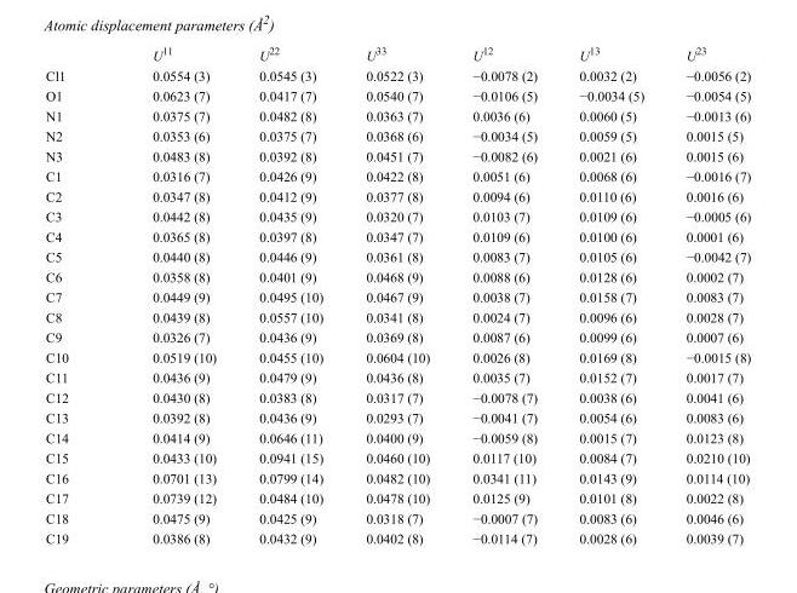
<table><thead><tr><td></td><td>U<sup>11</sup></td><td>U<sup>22</sup></td><td>U<sup>33</sup></td><td>U<sup>12</sup></td><td>U<sup>13</sup></td><td>U<sup>23</sup></td></tr></thead><tbody><tr><td>Cl1</td><td>0.0554 (3)</td><td>0.0545 (3)</td><td>0.0522 (3)</td><td>−0.0078 (2)</td><td>0.0032 (2)</td><td>−0.0056 (2)</td></tr><tr><td>O1</td><td>0.0623 (7)</td><td>0.0417 (7)</td><td>0.0540 (7)</td><td>−0.0106 (5)</td><td>−0.0034 (5)</td><td>−0.0054 (5)</td></tr><tr><td>N1</td><td>0.0375 (7)</td><td>0.0482 (8)</td><td>0.0363 (7)</td><td>0.0036 (6)</td><td>0.0060 (5)</td><td>−0.0013 (6)</td></tr><tr><td>N2</td><td>0.0353 (6)</td><td>0.0375 (7)</td><td>0.0368 (6)</td><td>−0.0034 (5)</td><td>0.0059 (5)</td><td>0.0015 (5)</td></tr><tr><td>N3</td><td>0.0483 (8)</td><td>0.0392 (8)</td><td>0.0451 (7)</td><td>−0.0082 (6)</td><td>0.0021 (6)</td><td>0.0015 (6)</td></tr><tr><td>C1</td><td>0.0316 (7)</td><td>0.0426 (9)</td><td>0.0422 (8)</td><td>0.0051 (6)</td><td>0.0068 (6)</td><td>−0.0016 (7)</td></tr><tr><td>C2</td><td>0.0347 (8)</td><td>0.0412 (9)</td><td>0.0377 (8)</td><td>0.0094 (6)</td><td>0.0110 (6)</td><td>0.0016 (6)</td></tr><tr><td>C3</td><td>0.0442 (8)</td><td>0.0435 (9)</td><td>0.0320 (7)</td><td>0.0103 (7)</td><td>0.0109 (6)</td><td>−0.0005 (6)</td></tr><tr><td>C4</td><td>0.0365 (8)</td><td>0.0397 (8)</td><td>0.0347 (7)</td><td>0.0109 (6)</td><td>0.0100 (6)</td><td>0.0001 (6)</td></tr><tr><td>C5</td><td>0.0440 (8)</td><td>0.0446 (9)</td><td>0.0361 (8)</td><td>0.0083 (7)</td><td>0.0105 (6)</td><td>−0.0042 (7)</td></tr><tr><td>C6</td><td>0.0358 (8)</td><td>0.0401 (9)</td><td>0.0468 (9)</td><td>0.0088 (6)</td><td>0.0128 (6)</td><td>0.0002 (7)</td></tr><tr><td>C7</td><td>0.0449 (9)</td><td>0.0495 (10)</td><td>0.0467 (9)</td><td>0.0038 (7)</td><td>0.0158 (7)</td><td>0.0083 (7)</td></tr><tr><td>C8</td><td>0.0439 (8)</td><td>0.0557 (10)</td><td>0.0341 (8)</td><td>0.0024 (7)</td><td>0.0096 (6)</td><td>0.0028 (7)</td></tr><tr><td>C9</td><td>0.0326 (7)</td><td>0.0436 (9)</td><td>0.0369 (8)</td><td>0.0087 (6)</td><td>0.0099 (6)</td><td>0.0007 (6)</td></tr><tr><td>C10</td><td>0.0519 (10)</td><td>0.0455 (10)</td><td>0.0604 (10)</td><td>0.0026 (8)</td><td>0.0169 (8)</td><td>−0.0015 (8)</td></tr><tr><td>C11</td><td>0.0436 (9)</td><td>0.0479 (9)</td><td>0.0436 (8)</td><td>0.0035 (7)</td><td>0.0152 (7)</td><td>0.0017 (7)</td></tr><tr><td>C12</td><td>0.0430 (8)</td><td>0.0383 (8)</td><td>0.0317 (7)</td><td>−0.0078 (7)</td><td>0.0038 (6)</td><td>0.0041 (6)</td></tr><tr><td>C13</td><td>0.0392 (8)</td><td>0.0436 (9)</td><td>0.0293 (7)</td><td>−0.0041 (7)</td><td>0.0054 (6)</td><td>0.0083 (6)</td></tr><tr><td>C14</td><td>0.0414 (9)</td><td>0.0646 (11)</td><td>0.0400 (9)</td><td>−0.0059 (8)</td><td>0.0015 (7)</td><td>0.0123 (8)</td></tr><tr><td>C15</td><td>0.0433 (10)</td><td>0.0941 (15)</td><td>0.0460 (10)</td><td>0.0117 (10)</td><td>0.0084 (7)</td><td>0.0210 (10)</td></tr><tr><td>C16</td><td>0.0701 (13)</td><td>0.0799 (14)</td><td>0.0482 (10)</td><td>0.0341 (11)</td><td>0.0143 (9)</td><td>0.0114 (10)</td></tr><tr><td>C17</td><td>0.0739 (12)</td><td>0.0484 (10)</td><td>0.0478 (10)</td><td>0.0125 (9)</td><td>0.0101 (8)</td><td>0.0022 (8)</td></tr><tr><td>C18</td><td>0.0475 (9)</td><td>0.0425 (9)</td><td>0.0318 (7)</td><td>−0.0007 (7)</td><td>0.0083 (6)</td><td>0.0046 (6)</td></tr><tr><td>C19</td><td>0.0386 (8)</td><td>0.0432 (9)</td><td>0.0402 (8)</td><td>−0.0114 (7)</td><td>0.0028 (6)</td><td>0.0039 (7)</td></tr></tbody></table>